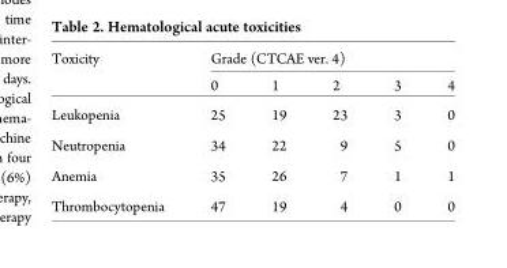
<table><thead><tr><td rowspan="2">Toxicity</td><td colspan="5">Grade (CTCAE ver. 4)</td></tr><tr><td>0</td><td>1</td><td>2</td><td>3</td><td>4</td></tr></thead><tbody><tr><td>Leukopenia</td><td>25</td><td>19</td><td>23</td><td>3</td><td>0</td></tr><tr><td>Neutropenia</td><td>34</td><td>22</td><td>9</td><td>5</td><td>0</td></tr><tr><td>Anemia</td><td>35</td><td>26</td><td>7</td><td>1</td><td>1</td></tr><tr><td>Thrombocytopenia</td><td>47</td><td>19</td><td>4</td><td>0</td><td>0</td></tr></tbody></table>